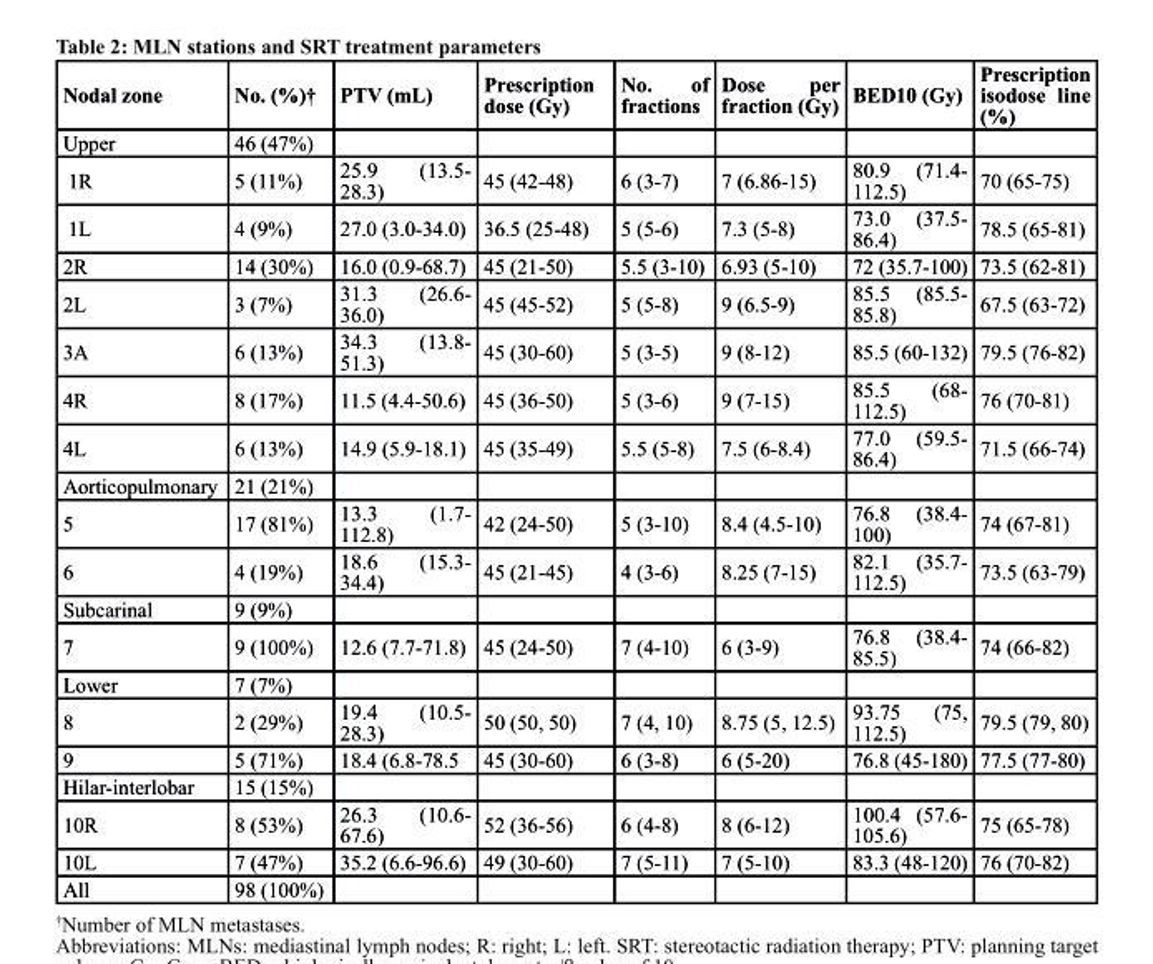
<table><thead><tr><td>Nodal zone</td><td>No. (%)†</td><td>PtV (mL)</td><td>Prescription dose (Gy)</td><td>No. of fractions</td><td>Dose per fraction (Gy)</td><td>bED10 (Gy)</td><td>Prescription isodose line (%)</td></tr></thead><tbody><tr><td>Upper</td><td>46 (47%)</td><td></td><td></td><td></td><td></td><td></td><td></td></tr><tr><td>1R</td><td>5 (11%)</td><td>25.9 (13.5- 28.3)</td><td>45 (42-48)</td><td>6 (3-7)</td><td>7 (6.86-15)</td><td>80.9 (71.4- 112.5)</td><td>70 (65-75)</td></tr><tr><td>1L</td><td>4 (9%)</td><td>27.0 (3.0-34.0)</td><td>36.5 (25-48)</td><td>5 (5-6)</td><td>7.3 (5-8)</td><td>73.0 (37.5- 86.4)</td><td>78.5 (65-81)</td></tr><tr><td>2R</td><td>14 (30%)</td><td>16.0 (0.9-68.7)</td><td>45 (21-50)</td><td>5.5 (3-10)</td><td>6.93 (5-10)</td><td>72 (35.7-100)</td><td>73.5 (62-81)</td></tr><tr><td>2L</td><td>3 (7%)</td><td>31.3 (26.6- 36.0)</td><td>45 (45-52)</td><td>5 (5-8)</td><td>9 (6.5-9)</td><td>85.5 (85.5- 85.8)</td><td>67.5 (63-72)</td></tr><tr><td>3A</td><td>6 (13%)</td><td>34.3 (13.8- 51.3)</td><td>45 (30-60)</td><td>5 (3-5)</td><td>9 (8-12)</td><td>85.5 (60-132)</td><td>79.5 (76-82)</td></tr><tr><td>4R</td><td>8 (17%)</td><td>11.5 (4.4-50.6)</td><td>45 (36-50)</td><td>5 (3-6)</td><td>9 (7-15)</td><td>85.5 (68- 112.5)</td><td>76 (70-81)</td></tr><tr><td>4L</td><td>6 (13%)</td><td>14.9 (5.9-18.1)</td><td>45 (35-49)</td><td>5.5 (5-8)</td><td>7.5 (6-8.4)</td><td>77.0 (59.5- 86.4)</td><td>71.5 (66-74)</td></tr><tr><td>Aorticopulmonary</td><td>21 (21%)</td><td></td><td></td><td></td><td></td><td></td><td></td></tr><tr><td>5</td><td>17 (81%)</td><td>13.3 (1.7- 112.8)</td><td>42 (24-50)</td><td>5 (3-10)</td><td>8.4 (4.5-10)</td><td>76.8 (38.4- 100)</td><td>74 (67-81)</td></tr><tr><td>6</td><td>4 (19%)</td><td>18.6 (15.3- 34.4)</td><td>45 (21-45)</td><td>4 (3-6)</td><td>8.25 (7-15)</td><td>82.1 (35.7- 112.5)</td><td>73.5 (63-79)</td></tr><tr><td>Subcarinal</td><td>9 (9%)</td><td></td><td></td><td></td><td></td><td></td><td></td></tr><tr><td>7</td><td>9 (100%)</td><td>12.6 (7.7-71.8)</td><td>45 (24-50)</td><td>7 (4-10)</td><td>6 (3-9)</td><td>76.8 (38.4- 85.5)</td><td>74 (66-82)</td></tr><tr><td>Lower</td><td>7 (7%)</td><td></td><td></td><td></td><td></td><td></td><td></td></tr><tr><td>8</td><td>2 (29%)</td><td>19.4 (10.5- 28.3)</td><td>50 (50, 50)</td><td>7 (4, 10)</td><td>8.75 (5, 12.5)</td><td>93.75 (75, 112.5)</td><td>79.5 (79, 80)</td></tr><tr><td>9</td><td>5 (71%)</td><td>18.4 (6.8-78.5</td><td>45 (30-60)</td><td>6 (3-8)</td><td>6 (5-20)</td><td>76.8 (45-180)</td><td>77.5 (77-80)</td></tr><tr><td>Hilar-interlobar</td><td>15 (15%)</td><td></td><td></td><td></td><td></td><td></td><td></td></tr><tr><td>10R</td><td>8 (53%)</td><td>26.3 (10.6- 67.6)</td><td>52 (36-56)</td><td>6 (4-8)</td><td>8 (6-12)</td><td>100.4 (57.6- 105.6)</td><td>75 (65-78)</td></tr><tr><td>10L</td><td>7 (47%)</td><td>35.2 (6.6-96.6)</td><td>49 (30-60)</td><td>7 (5-11)</td><td>7 (5-10)</td><td>83.3 (48-120)</td><td>76 (70-82)</td></tr><tr><td>All</td><td>98 (100%)</td><td></td><td></td><td></td><td></td><td></td><td></td></tr></tbody></table>